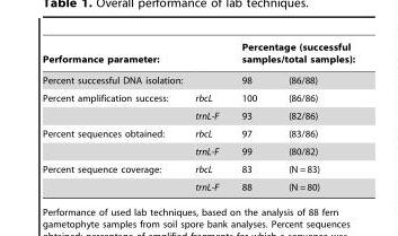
<table><thead><tr><td>Performance parameter:</td><td></td><td colspan="2">Percentage (successful samples/total samples):</td></tr><tr><td colspan="2">Percent successful DNA isolation:</td><td>98</td><td>(86/88)</td></tr></thead><tbody><tr><td rowspan="2">Percent amplification success:</td><td>rbcL</td><td>100</td><td>(86/86)</td></tr><tr><td>trnL-F</td><td>93</td><td>(82/86)</td></tr><tr><td rowspan="2">Percent sequences obtained:</td><td>rbcL</td><td>97</td><td>(83/86)</td></tr><tr><td>trnL-F</td><td>99</td><td>(80/82)</td></tr><tr><td rowspan="2">Percent sequence coverage:</td><td>rbcL</td><td>83</td><td>(N = 83)</td></tr><tr><td>trnL-F</td><td>88</td><td>(N = 80)</td></tr></tbody></table>